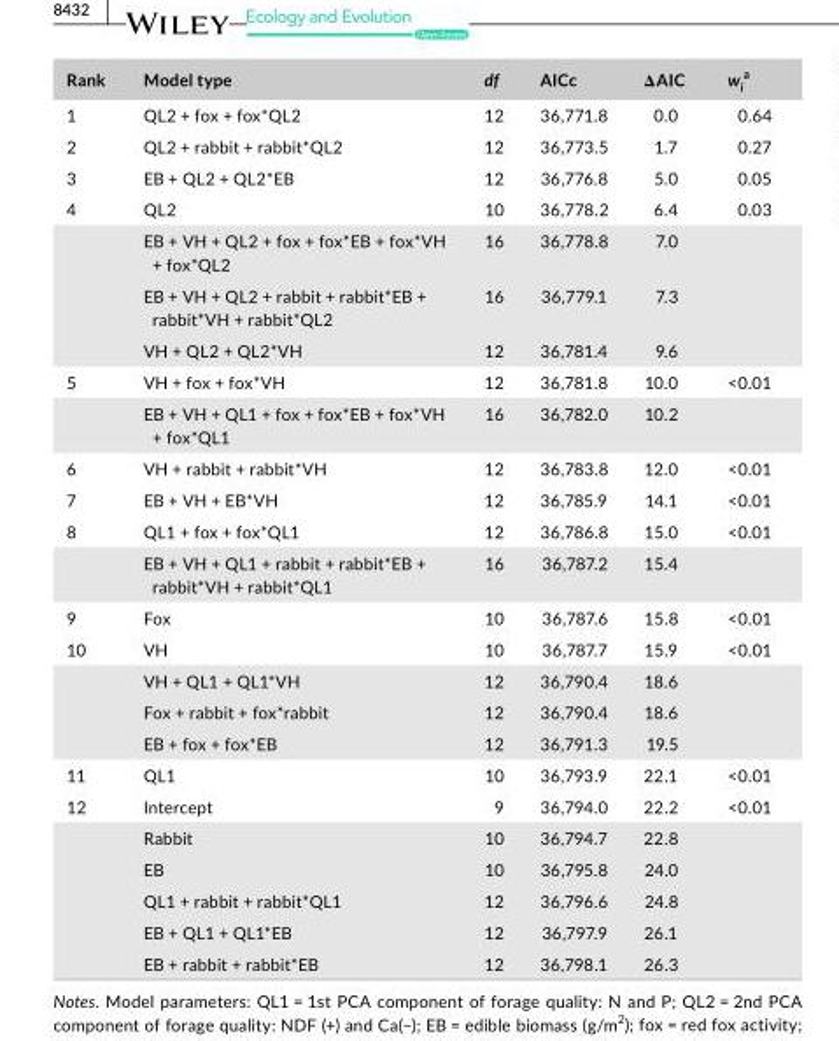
<table><thead><tr><td>Rank</td><td>Model type</td><td>df</td><td>AICc</td><td>ΔAIC</td><td>w<sub>i</sub> a</td></tr></thead><tbody><tr><td>1</td><td>QL2 + fox + fox*QL2</td><td>12</td><td>36,771.8</td><td>0.0</td><td>0.64</td></tr><tr><td>2</td><td>QL2 + rabbit + rabbit*QL2</td><td>12</td><td>36,773.5</td><td>1.7</td><td>0.27</td></tr><tr><td>3</td><td>EB + QL2 + QL2*EB</td><td>12</td><td>36,776.8</td><td>5.0</td><td>0.05</td></tr><tr><td rowspan="4">4</td><td>QL2</td><td>10</td><td>36,778.2</td><td>6.4</td><td>0.03</td></tr><tr><td>EB + VH + QL2 + fox + fox*EB + fox*VH + fox*QL2</td><td>16</td><td>36,778.8</td><td>7.0</td><td></td></tr><tr><td>EB + VH + QL2 + rabbit + rabbit*EB + rabbit*VH + rabbit*QL2</td><td>16</td><td>36,779.1</td><td>7.3</td><td></td></tr><tr><td>VH + QL2 + QL2*VH</td><td>12</td><td>36,781.4</td><td>9.6</td><td></td></tr><tr><td rowspan="2">5</td><td>VH + fox + fox*VH</td><td>12</td><td>36,781.8</td><td>10.0</td><td>&lt;0.01</td></tr><tr><td>EB + VH + QL1 + fox + fox*EB + fox*VH + fox*QL1</td><td>16</td><td>36,782.0</td><td>10.2</td><td></td></tr><tr><td>6</td><td>VH + rabbit + rabbit*VH</td><td>12</td><td>36,783.8</td><td>12.0</td><td>&lt;0.01</td></tr><tr><td>7</td><td>EB + VH + EB*VH</td><td>12</td><td>36,785.9</td><td>14.1</td><td>&lt;0.01</td></tr><tr><td rowspan="2">8</td><td>QL1 + fox + fox*QL1</td><td>12</td><td>36,786.8</td><td>15.0</td><td>&lt;0.01</td></tr><tr><td>EB + VH + QL1 + rabbit + rabbit*EB + rabbit*VH + rabbit*QL1</td><td>16</td><td>36,787.2</td><td>15.4</td><td></td></tr><tr><td>9</td><td>Fox</td><td>10</td><td>36,787.6</td><td>15.8</td><td>&lt;0.01</td></tr><tr><td rowspan="4">10</td><td>VH</td><td>10</td><td>36,787.7</td><td>15.9</td><td>&lt;0.01</td></tr><tr><td>VH + QL1 + QL1*VH</td><td>12</td><td>36,790.4</td><td>18.6</td><td></td></tr><tr><td>Fox + rabbit + fox*rabbit</td><td>12</td><td>36,790.4</td><td>18.6</td><td></td></tr><tr><td>EB + fox + fox*EB</td><td>12</td><td>36,791.3</td><td>19.5</td><td></td></tr><tr><td>11</td><td>QL1</td><td>10</td><td>36,793.9</td><td>22.1</td><td>&lt;0.01</td></tr><tr><td rowspan="6">12</td><td>Intercept</td><td>9</td><td>36,794.0</td><td>22.2</td><td>&lt;0.01</td></tr><tr><td>Rabbit</td><td>10</td><td>36,794.7</td><td>22.8</td><td></td></tr><tr><td>EB</td><td>10</td><td>36,795.8</td><td>24.0</td><td></td></tr><tr><td>QL1 + rabbit + rabbit*QL1</td><td>12</td><td>36,796.6</td><td>24.8</td><td></td></tr><tr><td>EB + QL1 + QL1*EB</td><td>12</td><td>36,797.9</td><td>26.1</td><td></td></tr><tr><td>EB + rabbit + rabbit*EB</td><td>12</td><td>36,798.1</td><td>26.3</td><td></td></tr></tbody></table>